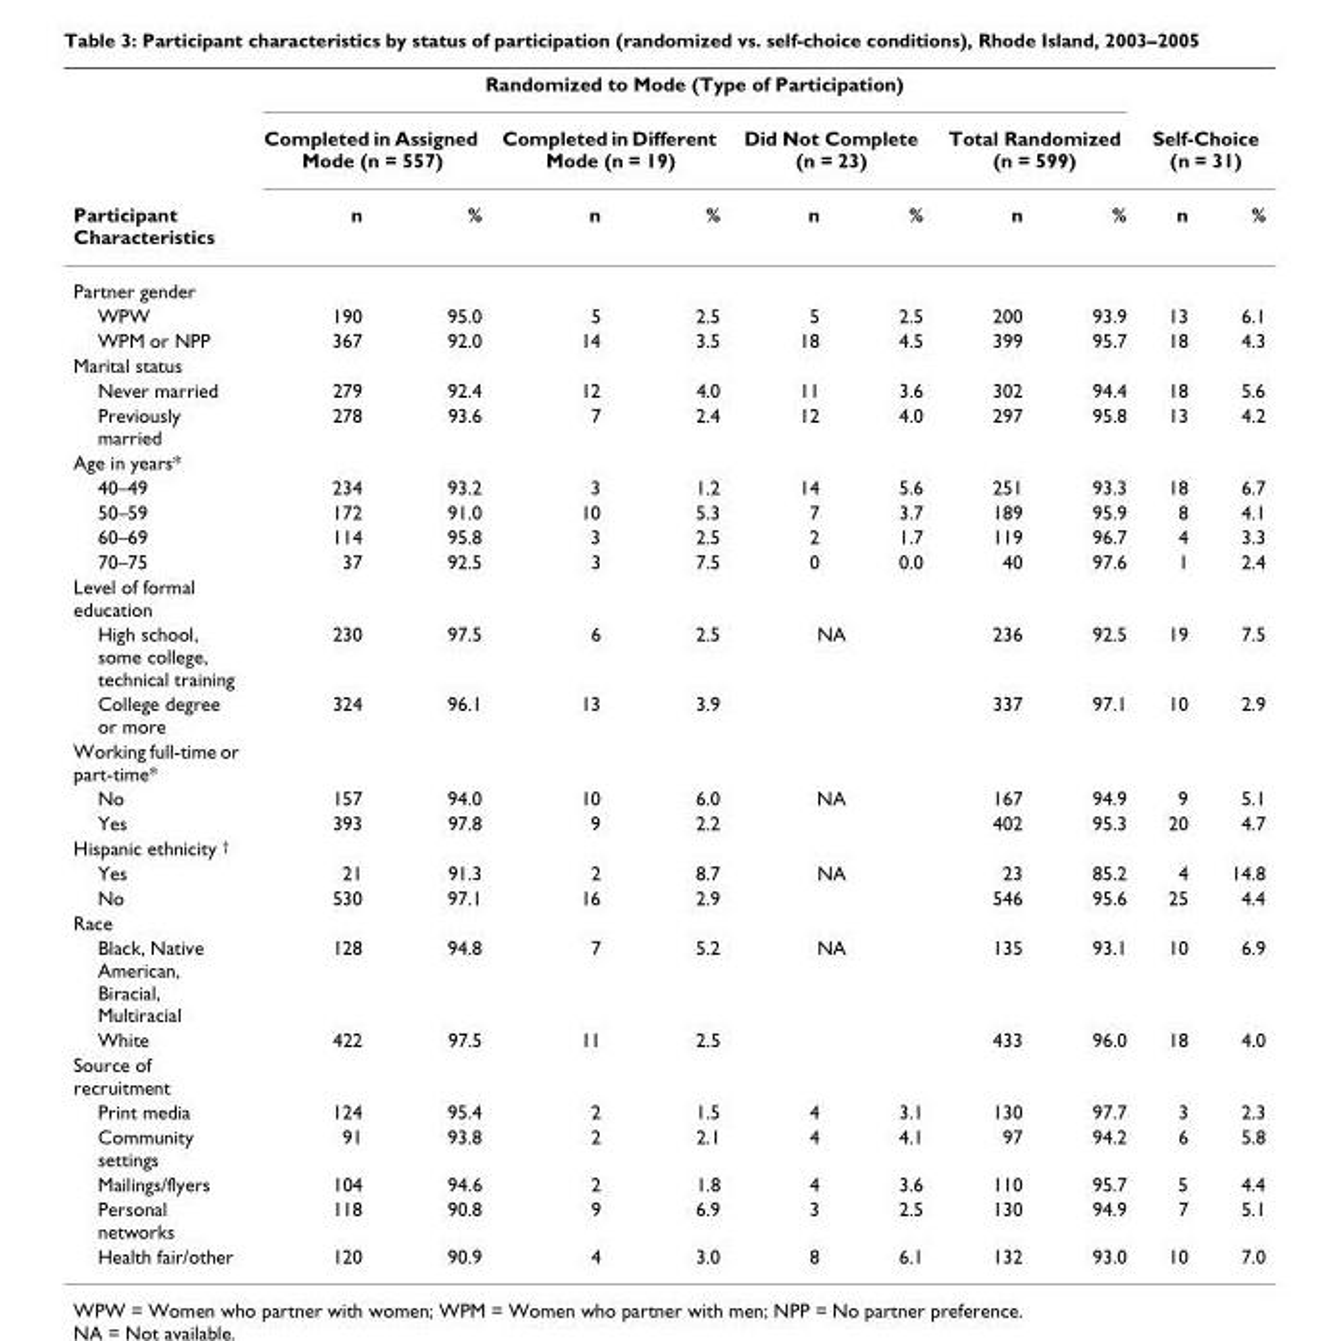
<table><thead><tr><td rowspan="3">Participant Characteristics</td><td colspan="8">Randomized to Mode (Type of Participation)</td><td></td><td></td></tr><tr><td colspan="2">Completed in Assigned Mode (n = 557)</td><td colspan="2">Completed in Different Mode (n = 19)</td><td colspan="2">Did Not Complete (n = 23)</td><td colspan="2">Total Randomized (n = 599)</td><td colspan="2">Self-Choice (n = 31)</td></tr><tr><td>n</td><td>%</td><td>n</td><td>%</td><td>n</td><td>%</td><td>n</td><td>%</td><td>n</td><td>%</td></tr></thead><tbody><tr><td colspan="11">Partner gender</td></tr><tr><td>WPW</td><td>190</td><td>95.0</td><td>5</td><td>2.5</td><td>5</td><td>2.5</td><td>200</td><td>93.9</td><td>13</td><td>6.1</td></tr><tr><td>WPM or NPP</td><td>367</td><td>92.0</td><td>14</td><td>3.5</td><td>18</td><td>4.5</td><td>399</td><td>95.7</td><td>18</td><td>4.3</td></tr><tr><td colspan="11">Marital status</td></tr><tr><td>Never married</td><td>279</td><td>92.4</td><td>12</td><td>4.0</td><td>11</td><td>3.6</td><td>302</td><td>94.4</td><td>18</td><td>5.6</td></tr><tr><td>Previously married</td><td>278</td><td>93.6</td><td>7</td><td>2.4</td><td>12</td><td>4.0</td><td>297</td><td>95.8</td><td>13</td><td>4.2</td></tr><tr><td colspan="11">Age in years*</td></tr><tr><td>40–49</td><td>234</td><td>93.2</td><td>3</td><td>1.2</td><td>14</td><td>5.6</td><td>251</td><td>93.3</td><td>18</td><td>6.7</td></tr><tr><td>50–59</td><td>172</td><td>91.0</td><td>10</td><td>5.3</td><td>7</td><td>3.7</td><td>189</td><td>95.9</td><td>8</td><td>4.1</td></tr><tr><td>60–69</td><td>114</td><td>95.8</td><td>3</td><td>2.5</td><td>2</td><td>1.7</td><td>119</td><td>96.7</td><td>4</td><td>3.3</td></tr><tr><td>70–75</td><td>37</td><td>92.5</td><td>3</td><td>7.5</td><td>0</td><td>0.0</td><td>40</td><td>97.6</td><td>1</td><td>2.4</td></tr><tr><td colspan="11">Level of formal education</td></tr><tr><td>High school, some college, technical training</td><td>230</td><td>97.5</td><td>6</td><td>2.5</td><td colspan="2">NA</td><td>236</td><td>92.5</td><td>19</td><td>7.5</td></tr><tr><td>College degree or more</td><td>324</td><td>96.1</td><td>13</td><td>3.9</td><td></td><td></td><td>337</td><td>97.1</td><td>10</td><td>2.9</td></tr><tr><td colspan="11">Working full-time or part-time*</td></tr><tr><td>No</td><td>157</td><td>94.0</td><td>10</td><td>6.0</td><td colspan="2">NA</td><td>167</td><td>94.9</td><td>9</td><td>5.1</td></tr><tr><td>Yes</td><td>393</td><td>97.8</td><td>9</td><td>2.2</td><td></td><td></td><td>402</td><td>95.3</td><td>20</td><td>4.7</td></tr><tr><td colspan="11">Hispanic ethnicity <sup>†</sup></td></tr><tr><td>Yes</td><td>21</td><td>91.3</td><td>2</td><td>8.7</td><td colspan="2">NA</td><td>23</td><td>85.2</td><td>4</td><td>14.8</td></tr><tr><td>No</td><td>530</td><td>97.1</td><td>16</td><td>2.9</td><td></td><td></td><td>546</td><td>95.6</td><td>25</td><td>4.4</td></tr><tr><td colspan="11">Race</td></tr><tr><td>Black, Native American, Biracial, Multiracial</td><td>128</td><td>94.8</td><td>7</td><td>5.2</td><td colspan="2">NA</td><td>135</td><td>93.1</td><td>10</td><td>6.9</td></tr><tr><td>White</td><td>422</td><td>97.5</td><td>11</td><td>2.5</td><td></td><td></td><td>433</td><td>96.0</td><td>18</td><td>4.0</td></tr><tr><td colspan="11">Source of recruitment</td></tr><tr><td>Print media</td><td>124</td><td>95.4</td><td>2</td><td>1.5</td><td>4</td><td>3.1</td><td>130</td><td>97.7</td><td>3</td><td>2.3</td></tr><tr><td>Community settings</td><td>91</td><td>93.8</td><td>2</td><td>2.1</td><td>4</td><td>4.1</td><td>97</td><td>94.2</td><td>6</td><td>5.8</td></tr><tr><td>Mailings/flyers</td><td>104</td><td>94.6</td><td>2</td><td>1.8</td><td>4</td><td>3.6</td><td>110</td><td>95.7</td><td>5</td><td>4.4</td></tr><tr><td>Personal networks</td><td>118</td><td>90.8</td><td>9</td><td>6.9</td><td>3</td><td>2.5</td><td>130</td><td>94.9</td><td>7</td><td>5.1</td></tr><tr><td>Health fair/other</td><td>120</td><td>90.9</td><td>4</td><td>3.0</td><td>8</td><td>6.1</td><td>132</td><td>93.0</td><td>10</td><td>7.0</td></tr></tbody></table>